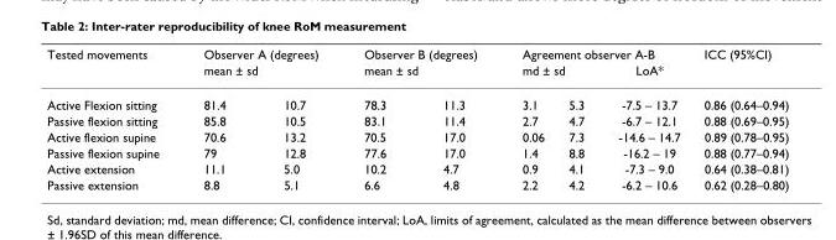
<table><thead><tr><td rowspan="3">Tested movements Active Flexion sitting</td><td rowspan="2" colspan="2">Observer A (degrees) mean ± sd</td><td rowspan="2" colspan="2">Observer B (degrees) mean ± sd</td><td colspan="3">Agreement observer A-B</td><td rowspan="3">ICC (95%CI) 0.86 (0.64–0.94)</td></tr><tr><td colspan="2">md ± sd</td><td rowspan="2">LoA* -7.5 – 13.7</td></tr><tr><td>81.4</td><td>10.7</td><td>78.3</td><td>11.3</td><td>3.1</td><td>5.3</td></tr></thead><tbody><tr><td>Passive flexion sitting</td><td>85.8</td><td>10.5</td><td>83.1</td><td>11.4</td><td>2.7</td><td>4.7</td><td>-6.7 – 12.1</td><td>0.88 (0.69–0.95)</td></tr><tr><td>Active flexion supine</td><td>70.6</td><td>13.2</td><td>70.5</td><td>17.0</td><td>0.06</td><td>7.3</td><td>-14.6 – 14.7</td><td>0.89 (0.78–0.95)</td></tr><tr><td>Passive flexion supine</td><td>79</td><td>12.8</td><td>77.6</td><td>17.0</td><td>1.4</td><td>8.8</td><td>-16.2 – 19</td><td>0.88 (0.77–0.94)</td></tr><tr><td>Active extension</td><td>11.1</td><td>5.0</td><td>10.2</td><td>4.7</td><td>0.9</td><td>4.1</td><td>-7.3 – 9.0</td><td>0.64 (0.38–0.81)</td></tr><tr><td>Passive extension</td><td>8.8</td><td>5.1</td><td>6.6</td><td>4.8</td><td>2.2</td><td>4.2</td><td>-6.2 – 10.6</td><td>0.62 (0.28–0.80)</td></tr></tbody></table>